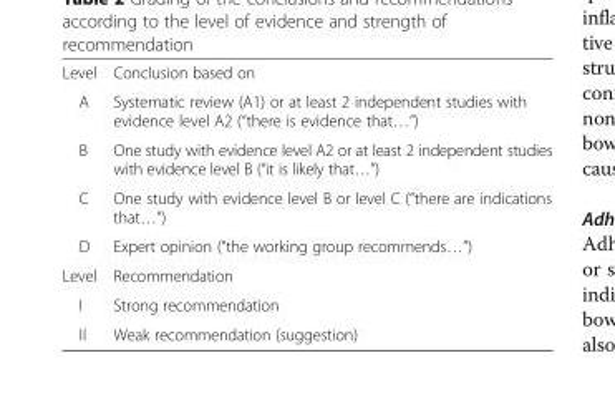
<table><tbody><tr><td>Level</td><td>Conclusion based on</td></tr><tr><td>A</td><td>Systematic review (A1) or at least 2 independent studies with evidence level A2 (“there is evidence that…”)</td></tr><tr><td>B</td><td>One study with evidence level A2 or at least 2 independent studies with evidence level B (“it is likely that…”)</td></tr><tr><td>C</td><td>One study with evidence level B or level C (“there are indications that…”)</td></tr><tr><td>D</td><td>Expert opinion (“the working group recommends…”)</td></tr><tr><td>Level</td><td>Recommendation</td></tr><tr><td>I</td><td>Strong recommendation</td></tr><tr><td>II</td><td>Weak recommendation (suggestion)</td></tr></tbody></table>